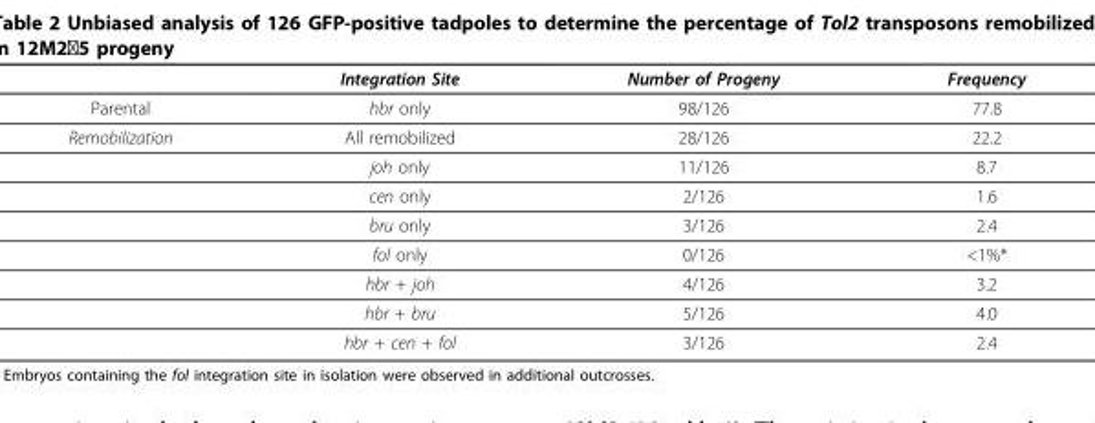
<table><thead><tr><td></td><td>Integration Site</td><td>Number of Progeny</td><td>Frequency</td></tr></thead><tbody><tr><td>Parental</td><td>hbr only</td><td>98/126</td><td>77.8</td></tr><tr><td rowspan="8">Remobilization</td><td>All remobilized</td><td>28/126</td><td>22.2</td></tr><tr><td>joh only</td><td>11/126</td><td>8.7</td></tr><tr><td>cen only</td><td>2/126</td><td>1.6</td></tr><tr><td>bru only</td><td>3/126</td><td>2.4</td></tr><tr><td>fol only</td><td>0/126</td><td>&lt;1%*</td></tr><tr><td>hbr + joh</td><td>4/126</td><td>3.2</td></tr><tr><td>hbr + bru</td><td>5/126</td><td>4.0</td></tr><tr><td>hbr + cen + fol</td><td>3/126</td><td>2.4</td></tr></tbody></table>